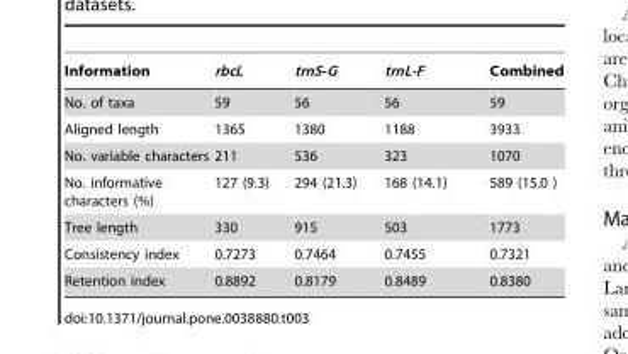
<table><thead><tr><td>Information</td><td>rbcL</td><td>trnS-G</td><td>trnL-F</td><td>Combined</td></tr></thead><tbody><tr><td>No. of taxa</td><td>59</td><td>56</td><td>56</td><td>59</td></tr><tr><td>Aligned length</td><td>1365</td><td>1380</td><td>1188</td><td>3933</td></tr><tr><td>No. variable characters</td><td>211</td><td>536</td><td>323</td><td>1070</td></tr><tr><td>No. informative characters (%)</td><td>127 (9.3)</td><td>294 (21.3)</td><td>168 (14.1)</td><td>589 (15.0 )</td></tr><tr><td>Tree length</td><td>330</td><td>915</td><td>503</td><td>1773</td></tr><tr><td>Consistency index</td><td>0.7273</td><td>0.7464</td><td>0.7455</td><td>0.7321</td></tr><tr><td>Retention index</td><td>0.8892</td><td>0.8179</td><td>0.8489</td><td>0.8380</td></tr></tbody></table>